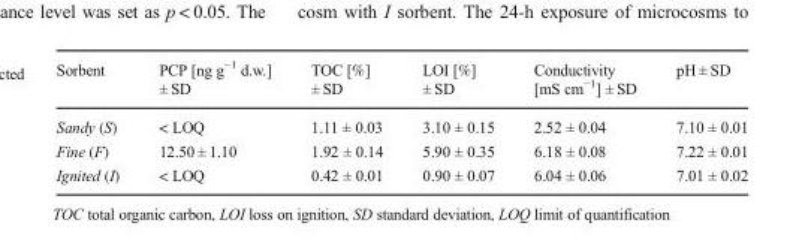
<table><thead><tr><td>Sorbent</td><td>PCP [ng g<sup>−1</sup> d.w.] ± SD</td><td>TOC [%] ± SD</td><td>LOI [%] ± SD</td><td>Conductivity [mS cm<sup>−1</sup>] ± SD</td><td>pH ± SD</td></tr></thead><tbody><tr><td>Sandy (S)</td><td>&lt; LOQ</td><td>1.11 ± 0.03</td><td>3.10 ± 0.15</td><td>2.52 ± 0.04</td><td>7.10 ± 0.01</td></tr><tr><td>Fine (F)</td><td>12.50 ± 1.10</td><td>1.92 ± 0.14</td><td>5.90 ± 0.35</td><td>6.18 ± 0.08</td><td>7.22 ± 0.01</td></tr><tr><td>Ignited (I)</td><td>&lt; LOQ</td><td>0.42 ± 0.01</td><td>0.90 ± 0.07</td><td>6.04 ± 0.06</td><td>7.01 ± 0.02</td></tr></tbody></table>